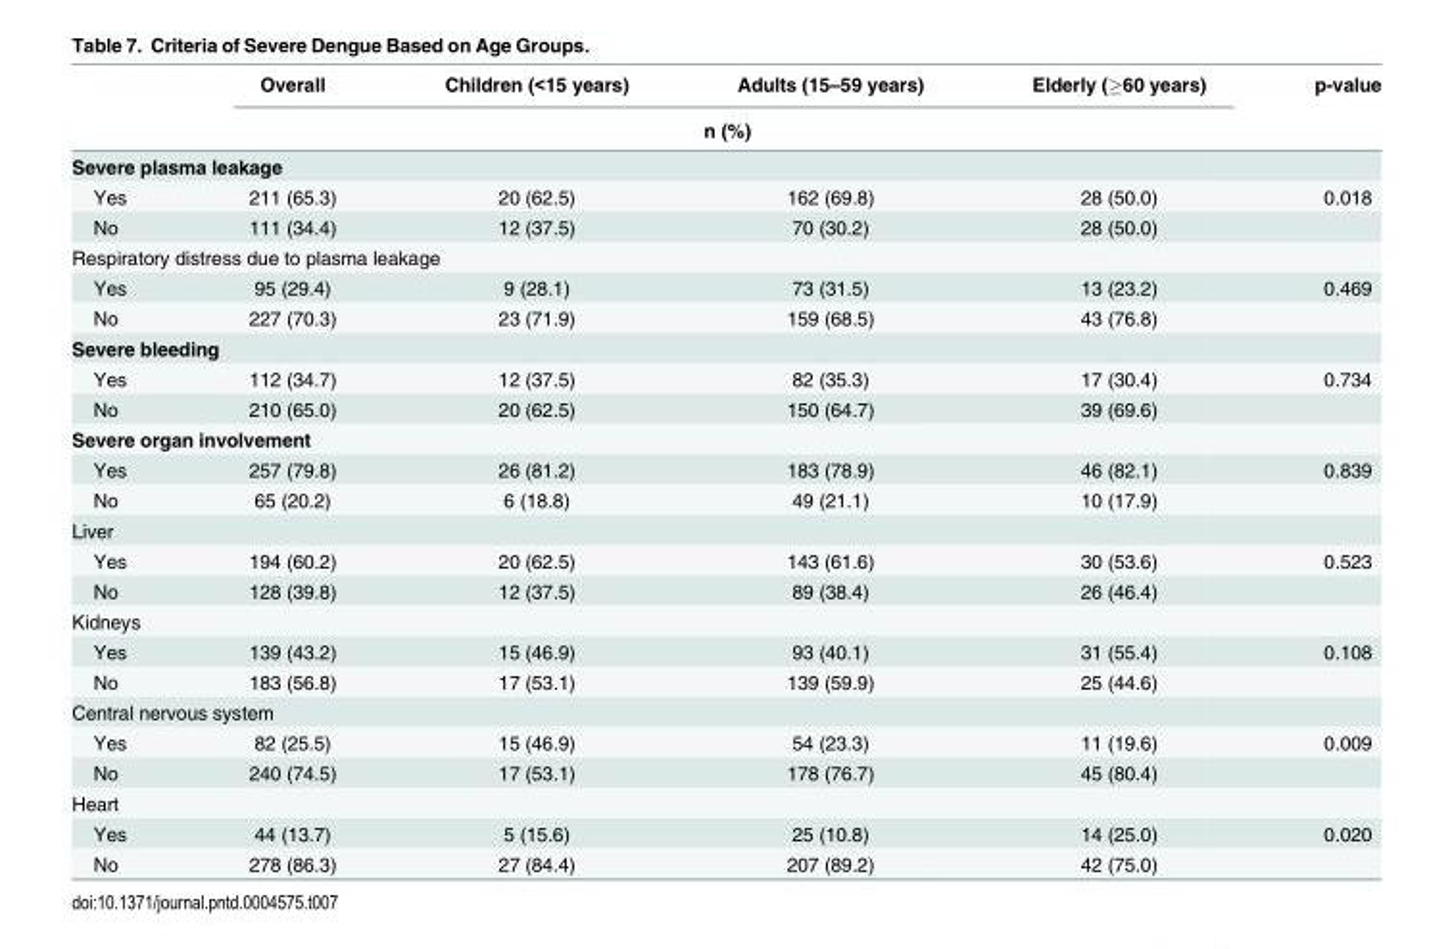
<table><thead><tr><td rowspan="2"></td><td>Overall</td><td>Children (&lt;15 years)</td><td>Adults (15–59 years)</td><td>Elderly (≥60 years)</td><td rowspan="2">p-value</td></tr><tr><td colspan="4">n (%)</td></tr></thead><tbody><tr><td colspan="6">Severe plasma leakage</td></tr><tr><td>Yes</td><td>211 (65.3)</td><td>20 (62.5)</td><td>162 (69.8)</td><td>28 (50.0)</td><td>0.018</td></tr><tr><td>No</td><td>111 (34.4)</td><td>12 (37.5)</td><td>70 (30.2)</td><td>28 (50.0)</td><td></td></tr><tr><td colspan="6">Respiratory distress due to plasma leakage</td></tr><tr><td>Yes</td><td>95 (29.4)</td><td>9 (28.1)</td><td>73 (31.5)</td><td>13 (23.2)</td><td>0.469</td></tr><tr><td>No</td><td>227 (70.3)</td><td>23 (71.9)</td><td>159 (68.5)</td><td>43 (76.8)</td><td></td></tr><tr><td colspan="6">Severe bleeding</td></tr><tr><td>Yes</td><td>112 (34.7)</td><td>12 (37.5)</td><td>82 (35.3)</td><td>17 (30.4)</td><td>0.734</td></tr><tr><td>No</td><td>210 (65.0)</td><td>20 (62.5)</td><td>150 (64.7)</td><td>39 (69.6)</td><td></td></tr><tr><td colspan="6">Severe organ involvement</td></tr><tr><td>Yes</td><td>257 (79.8)</td><td>26 (81.2)</td><td>183 (78.9)</td><td>46 (82.1)</td><td>0.839</td></tr><tr><td>No</td><td>65 (20.2)</td><td>6 (18.8)</td><td>49 (21.1)</td><td>10 (17.9)</td><td></td></tr><tr><td colspan="6">Liver</td></tr><tr><td>Yes</td><td>194 (60.2)</td><td>20 (62.5)</td><td>143 (61.6)</td><td>30 (53.6)</td><td>0.523</td></tr><tr><td>No</td><td>128 (39.8)</td><td>12 (37.5)</td><td>89 (38.4)</td><td>26 (46.4)</td><td></td></tr><tr><td colspan="6">Kidneys</td></tr><tr><td>Yes</td><td>139 (43.2)</td><td>15 (46.9)</td><td>93 (40.1)</td><td>31 (55.4)</td><td>0.108</td></tr><tr><td>No</td><td>183 (56.8)</td><td>17 (53.1)</td><td>139 (59.9)</td><td>25 (44.6)</td><td></td></tr><tr><td colspan="6">Central nervous system</td></tr><tr><td>Yes</td><td>82 (25.5)</td><td>15 (46.9)</td><td>54 (23.3)</td><td>11 (19.6)</td><td>0.009</td></tr><tr><td>No</td><td>240 (74.5)</td><td>17 (53.1)</td><td>178 (76.7)</td><td>45 (80.4)</td><td></td></tr><tr><td colspan="6">Heart</td></tr><tr><td>Yes</td><td>44 (13.7)</td><td>5 (15.6)</td><td>25 (10.8)</td><td>14 (25.0)</td><td>0.020</td></tr><tr><td>No</td><td>278 (86.3)</td><td>27 (84.4)</td><td>207 (89.2)</td><td>42 (75.0)</td><td></td></tr></tbody></table>